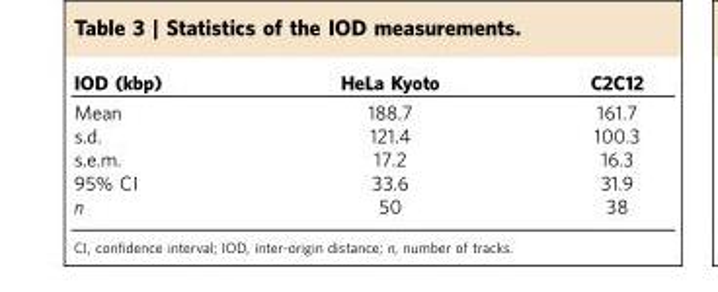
<table><thead><tr><td>IOD (kbp)</td><td>HeLa Kyoto</td><td>C2C12</td></tr></thead><tbody><tr><td>Mean</td><td>188.7</td><td>161.7</td></tr><tr><td>s.d.</td><td>121.4</td><td>100.3</td></tr><tr><td>s.e.m.</td><td>17.2</td><td>16.3</td></tr><tr><td>95% CI</td><td>33.6</td><td>31.9</td></tr><tr><td>n</td><td>50</td><td>38</td></tr></tbody></table>